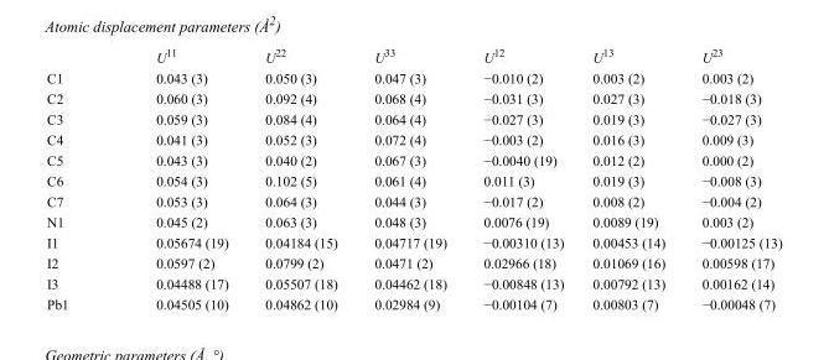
<table><thead><tr><td></td><td>U<sup>11</sup></td><td>U<sup>22</sup></td><td>U<sup>33</sup></td><td>U<sup>12</sup></td><td>U<sup>13</sup></td><td>U<sup>23</sup></td></tr></thead><tbody><tr><td>C1</td><td>0.043 (3)</td><td>0.050 (3)</td><td>0.047 (3)</td><td>−0.010 (2)</td><td>0.003 (2)</td><td>0.003 (2)</td></tr><tr><td>C2</td><td>0.060 (3)</td><td>0.092 (4)</td><td>0.068 (4)</td><td>−0.031 (3)</td><td>0.027 (3)</td><td>−0.018 (3)</td></tr><tr><td>C3</td><td>0.059 (3)</td><td>0.084 (4)</td><td>0.064 (4)</td><td>−0.027 (3)</td><td>0.019 (3)</td><td>−0.027 (3)</td></tr><tr><td>C4</td><td>0.041 (3)</td><td>0.052 (3)</td><td>0.072 (4)</td><td>−0.003 (2)</td><td>0.016 (3)</td><td>0.009 (3)</td></tr><tr><td>C5</td><td>0.043 (3)</td><td>0.040 (2)</td><td>0.067 (3)</td><td>−0.0040 (19)</td><td>0.012 (2)</td><td>0.000 (2)</td></tr><tr><td>C6</td><td>0.054 (3)</td><td>0.102 (5)</td><td>0.061 (4)</td><td>0.011 (3)</td><td>0.019 (3)</td><td>−0.008 (3)</td></tr><tr><td>C7</td><td>0.053 (3)</td><td>0.064 (3)</td><td>0.044 (3)</td><td>−0.017 (2)</td><td>0.008 (2)</td><td>−0.004 (2)</td></tr><tr><td>N1</td><td>0.045 (2)</td><td>0.063 (3)</td><td>0.048 (3)</td><td>0.0076 (19)</td><td>0.0089 (19)</td><td>0.003 (2)</td></tr><tr><td>I1</td><td>0.05674 (19)</td><td>0.04184 (15)</td><td>0.04717 (19)</td><td>−0.00310 (13)</td><td>0.00453 (14)</td><td>−0.00125 (13)</td></tr><tr><td>I2</td><td>0.0597 (2)</td><td>0.0799 (2)</td><td>0.0471 (2)</td><td>0.02966 (18)</td><td>0.01069 (16)</td><td>0.00598 (17)</td></tr><tr><td>I3</td><td>0.04488 (17)</td><td>0.05507 (18)</td><td>0.04462 (18)</td><td>−0.00848 (13)</td><td>0.00792 (13)</td><td>0.00162 (14)</td></tr><tr><td>Pb1</td><td>0.04505 (10)</td><td>0.04862 (10)</td><td>0.02984 (9)</td><td>−0.00104 (7)</td><td>0.00803 (7)</td><td>−0.00048 (7)</td></tr></tbody></table>